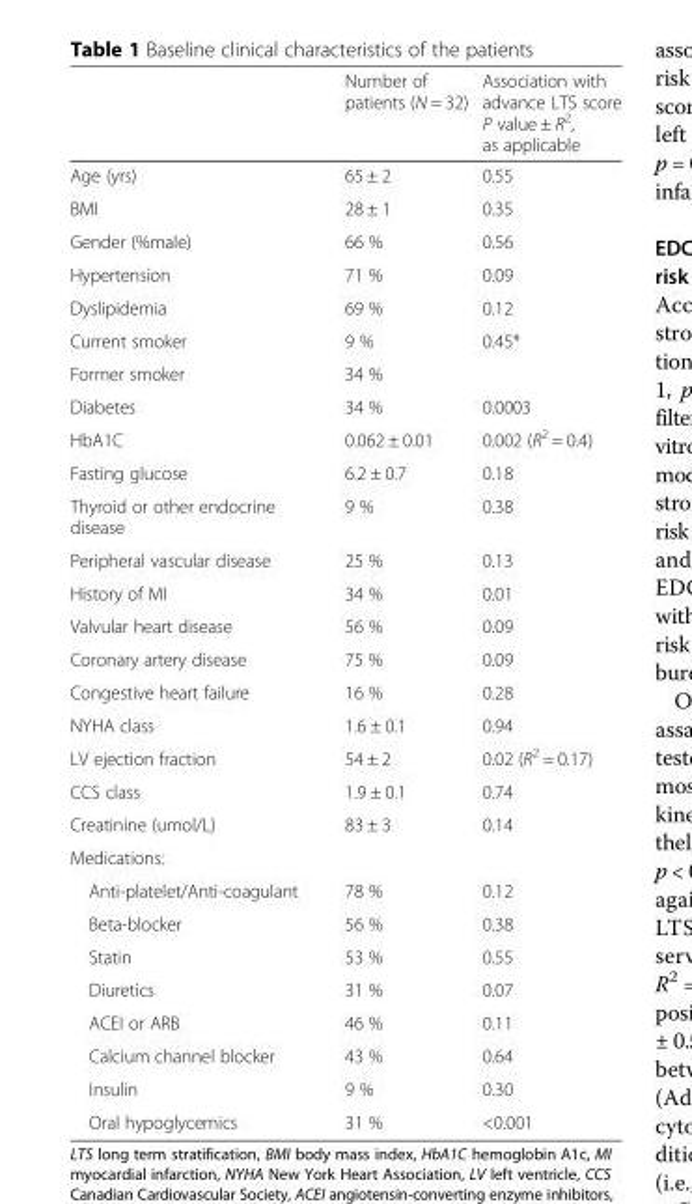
<table><thead><tr><td></td><td>Number of patients (N = 32)</td><td>Association with advance LTS score P value ± R<sup>2</sup>, as applicable</td></tr></thead><tbody><tr><td>Age (yrs)</td><td>65 ± 2</td><td>0.55</td></tr><tr><td>BMI</td><td>28 ± 1</td><td>0.35</td></tr><tr><td>Gender (%male)</td><td>66 %</td><td>0.56</td></tr><tr><td>Hypertension</td><td>71 %</td><td>0.09</td></tr><tr><td>Dyslipidemia</td><td>69 %</td><td>0.12</td></tr><tr><td>Current smoker</td><td>9 %</td><td rowspan="2">0.45*</td></tr><tr><td>Former smoker</td><td>34 %</td></tr><tr><td>Diabetes</td><td>34 %</td><td>0.0003</td></tr><tr><td>HbA1C</td><td>0.062 ± 0.01</td><td>0.002 (R<sup>2</sup> = 0.4)</td></tr><tr><td>Fasting glucose</td><td>6.2 ± 0.7</td><td>0.18</td></tr><tr><td>Thyroid or other endocrine disease</td><td>9 %</td><td>0.38</td></tr><tr><td>Peripheral vascular disease</td><td>25 %</td><td>0.13</td></tr><tr><td>History of MI</td><td>34 %</td><td>0.01</td></tr><tr><td>Valvular heart disease</td><td>56 %</td><td>0.09</td></tr><tr><td>Coronary artery disease</td><td>75 %</td><td>0.09</td></tr><tr><td>Congestive heart failure</td><td>16 %</td><td>0.28</td></tr><tr><td>NYHA class</td><td>1.6 ± 0.1</td><td>0.94</td></tr><tr><td>LV ejection fraction</td><td>54 ± 2</td><td>0.02 (R<sup>2</sup> = 0.17)</td></tr><tr><td>CCS class</td><td>1.9 ± 0.1</td><td>0.74</td></tr><tr><td>Creatinine (umol/L)</td><td>83 ± 3</td><td>0.14</td></tr><tr><td colspan="3">Medications:</td></tr><tr><td>Anti-platelet/Anti-coagulant</td><td>78 %</td><td>0.12</td></tr><tr><td>Beta-blocker</td><td>56 %</td><td>0.38</td></tr><tr><td>Statin</td><td>53 %</td><td>0.55</td></tr><tr><td>Diuretics</td><td>31 %</td><td>0.07</td></tr><tr><td>ACEI or ARB</td><td>46 %</td><td>0.11</td></tr><tr><td>Calcium channel blocker</td><td>43 %</td><td>0.64</td></tr><tr><td>Insulin</td><td>9 %</td><td>0.30</td></tr><tr><td>Oral hypoglycemics</td><td>31 %</td><td>&lt;0.001</td></tr></tbody></table>